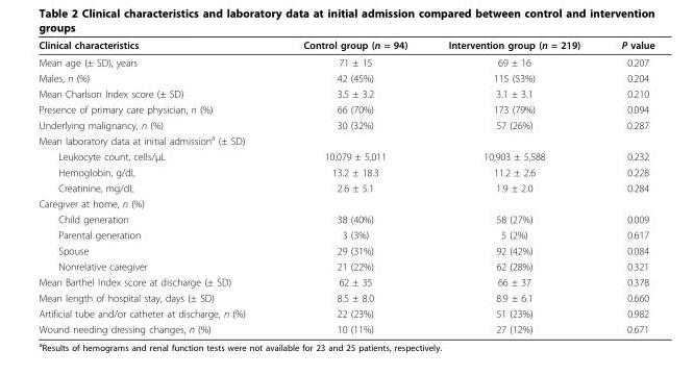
<table><thead><tr><td>Clinical characteristics</td><td>Control group (n = 94)</td><td>Intervention group (n = 219)</td><td>P value</td></tr></thead><tbody><tr><td>Mean age (± SD), years</td><td>71 ± 15</td><td>69 ± 16</td><td>0.207</td></tr><tr><td>Males, n (%)</td><td>42 (45%)</td><td>115 (53%)</td><td>0.204</td></tr><tr><td>Mean Charlson Index score (± SD)</td><td>3.5 ± 3.2</td><td>3.1 ± 3.1</td><td>0.210</td></tr><tr><td>Presence of primary care physician, n (%)</td><td>66 (70%)</td><td>173 (79%)</td><td>0.094</td></tr><tr><td>Underlying malignancy, n (%)</td><td>30 (32%)</td><td>57 (26%)</td><td>0.287</td></tr><tr><td colspan="4">Mean laboratory data at initial admission<sup>a</sup> (± SD)</td></tr><tr><td>Leukocyte count, cells/μL</td><td>10,079 ± 5,011</td><td>10,903 ± 5,588</td><td>0.232</td></tr><tr><td>Hemoglobin, g/dL</td><td>13.2 ± 18.3</td><td>11.2 ± 2.6</td><td>0.228</td></tr><tr><td>Creatinine, mg/dL</td><td>2.6 ± 5.1</td><td>1.9 ± 2.0</td><td>0.284</td></tr><tr><td colspan="4">Caregiver at home, n (%)</td></tr><tr><td>Child generation</td><td>38 (40%)</td><td>58 (27%)</td><td>0.009</td></tr><tr><td>Parental generation</td><td>3 (3%)</td><td>5 (2%)</td><td>0.617</td></tr><tr><td>Spouse</td><td>29 (31%)</td><td>92 (42%)</td><td>0.084</td></tr><tr><td>Nonrelative caregiver</td><td>21 (22%)</td><td>62 (28%)</td><td>0.321</td></tr><tr><td>Mean Barthel Index score at discharge (± SD)</td><td>62 ± 35</td><td>66 ± 37</td><td>0.378</td></tr><tr><td>Mean length of hospital stay, days (± SD)</td><td>8.5 ± 8.0</td><td>8.9 ± 6.1</td><td>0.660</td></tr><tr><td>Artificial tube and/or catheter at discharge, n (%)</td><td>22 (23%)</td><td>51 (23%)</td><td>0.982</td></tr><tr><td>Wound needing dressing changes, n (%)</td><td>10 (11%)</td><td>27 (12%)</td><td>0.671</td></tr></tbody></table>